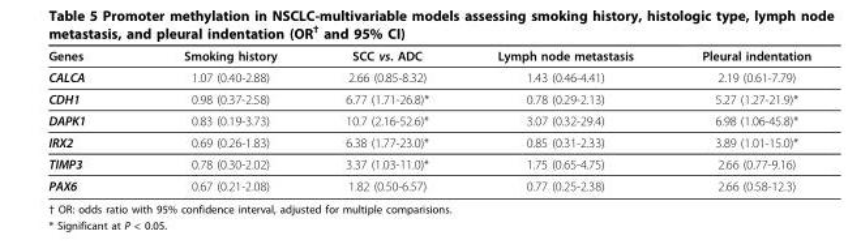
<table><thead><tr><td>Genes</td><td>Smoking history</td><td>SCC vs. ADC</td><td>Lymph node metastasis</td><td>Pleural indentation</td></tr></thead><tbody><tr><td>CALCA</td><td>1.07 (0.40-2.88)</td><td>2.66 (0.85-8.32)</td><td>1.43 (0.46-4.41)</td><td>2.19 (0.61-7.79)</td></tr><tr><td>CDH1</td><td>0.98 (0.37-2.58)</td><td>6.77 (1.71-26.8)*</td><td>0.78 (0.29-2.13)</td><td>5.27 (1.27-21.9)*</td></tr><tr><td>DAPK1</td><td>0.83 (0.19-3.73)</td><td>10.7 (2.16-52.6)*</td><td>3.07 (0.32-29.4)</td><td>6.98 (1.06-45.8)*</td></tr><tr><td>IRX2</td><td>0.69 (0.26-1.83)</td><td>6.38 (1.77-23.0)*</td><td>0.85 (0.31-2.33)</td><td>3.89 (1.01-15.0)*</td></tr><tr><td>TIMP3</td><td>0.78 (0.30-2.02)</td><td>3.37 (1.03-11.0)*</td><td>1.75 (0.65-4.75)</td><td>2.66 (0.77-9.16)</td></tr><tr><td>PAX6</td><td>0.67 (0.21-2.08)</td><td>1.82 (0.50-6.57)</td><td>0.77 (0.25-2.38)</td><td>2.66 (0.58-12.3)</td></tr></tbody></table>